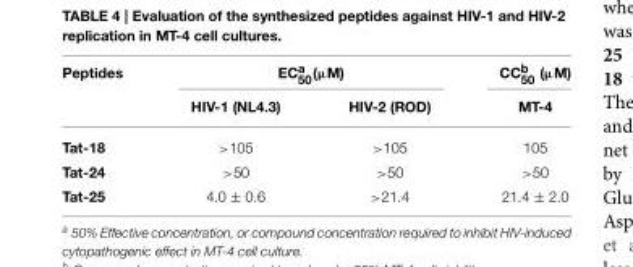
<table><thead><tr><td rowspan="2">Peptides</td><td colspan="2">EC<sup>a</sup> <sub>50</sub>(µM)</td><td rowspan="2">CC<sup>b</sup> <sub>50</sub> (µM) MT-4</td></tr><tr><td>HIV-1 (NL4.3)</td><td>HIV-2 (ROD)</td></tr></thead><tbody><tr><td>Tat-18</td><td>&gt;105</td><td>&gt;105</td><td>105</td></tr><tr><td>Tat-24</td><td>&gt;50</td><td>&gt;50</td><td>&gt;50</td></tr><tr><td>Tat-25</td><td>4.0 ± 0.6</td><td>&gt;21.4</td><td>21.4 ± 2.0</td></tr></tbody></table>